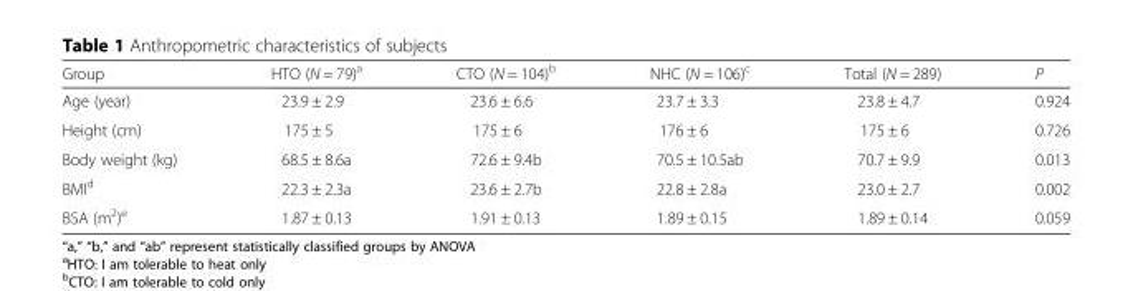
<table><thead><tr><td>Group</td><td>HTO (N = 79)<sup>a</sup></td><td>CTO (N = 104)<sup>b</sup></td><td>NHC (N = 106)<sup>c</sup></td><td>Total (N = 289)</td><td>P</td></tr></thead><tbody><tr><td>Age (year)</td><td>23.9 ± 2.9</td><td>23.6 ± 6.6</td><td>23.7 ± 3.3</td><td>23.8 ± 4.7</td><td>0.924</td></tr><tr><td>Height (cm)</td><td>175 ± 5</td><td>175 ± 6</td><td>176 ± 6</td><td>175 ± 6</td><td>0.726</td></tr><tr><td>Body weight (kg)</td><td>68.5 ± 8.6a</td><td>72.6 ± 9.4b</td><td>70.5 ± 10.5ab</td><td>70.7 ± 9.9</td><td>0.013</td></tr><tr><td>BMI<sup>d</sup></td><td>22.3 ± 2.3a</td><td>23.6 ± 2.7b</td><td>22.8 ± 2.8a</td><td>23.0 ± 2.7</td><td>0.002</td></tr><tr><td>BSA (m<sup>2</sup>)<sup>e</sup></td><td>1.87 ± 0.13</td><td>1.91 ± 0.13</td><td>1.89 ± 0.15</td><td>1.89 ± 0.14</td><td>0.059</td></tr></tbody></table>